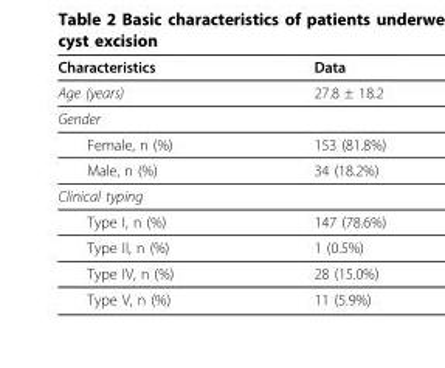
<table><thead><tr><td>Characteristics</td><td>Data</td></tr></thead><tbody><tr><td>Age (years)</td><td>27.8 ± 18.2</td></tr><tr><td colspan="2">Gender</td></tr><tr><td>Female, n (%)</td><td>153 (81.8%)</td></tr><tr><td>Male, n (%)</td><td>34 (18.2%)</td></tr><tr><td colspan="2">Clinical typing</td></tr><tr><td>Type I, n (%)</td><td>147 (78.6%)</td></tr><tr><td>Type II, n (%)</td><td>1 (0.5%)</td></tr><tr><td>Type IV, n (%)</td><td>28 (15.0%)</td></tr><tr><td>Type V, n (%)</td><td>11 (5.9%)</td></tr></tbody></table>